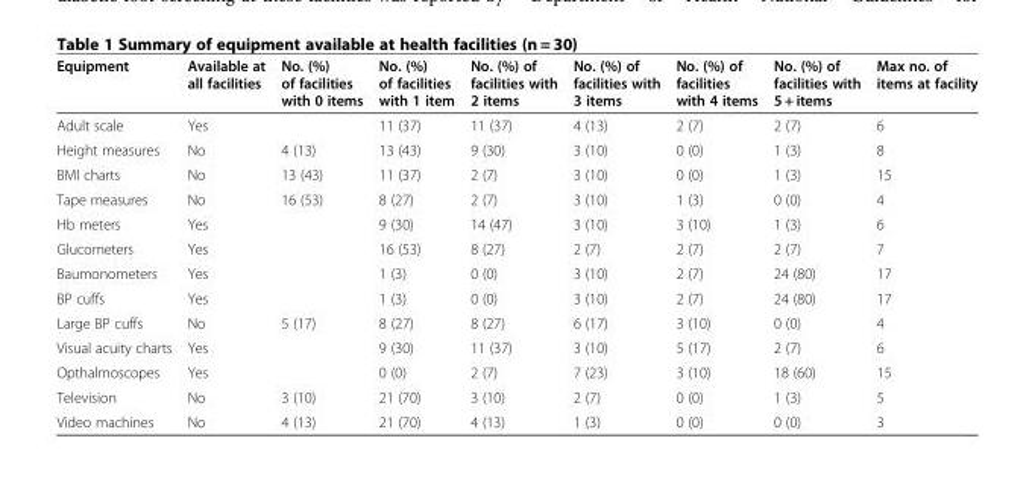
<table><thead><tr><td>Equipment</td><td>Available at all facilities</td><td>No. (%) of facilities with 0 items</td><td>No. (%) of facilities with 1 item</td><td>No. (%) of facilities with 2 items</td><td>No. (%) of facilities with 3 items</td><td>No. (%) of facilities with 4 items</td><td>No. (%) of facilities with 5 + items</td><td>Max no. of items at facility</td></tr></thead><tbody><tr><td>Adult scale</td><td>Yes</td><td></td><td>11 (37)</td><td>11 (37)</td><td>4 (13)</td><td>2 (7)</td><td>2 (7)</td><td>6</td></tr><tr><td>Height measures</td><td>No</td><td>4 (13)</td><td>13 (43)</td><td>9 (30)</td><td>3 (10)</td><td>0 (0)</td><td>1 (3)</td><td>8</td></tr><tr><td>BMI charts</td><td>No</td><td>13 (43)</td><td>11 (37)</td><td>2 (7)</td><td>3 (10)</td><td>0 (0)</td><td>1 (3)</td><td>15</td></tr><tr><td>Tape measures</td><td>No</td><td>16 (53)</td><td>8 (27)</td><td>2 (7)</td><td>3 (10)</td><td>1 (3)</td><td>0 (0)</td><td>4</td></tr><tr><td>Hb meters</td><td>Yes</td><td></td><td>9 (30)</td><td>14 (47)</td><td>3 (10)</td><td>3 (10)</td><td>1 (3)</td><td>6</td></tr><tr><td>Glucometers</td><td>Yes</td><td></td><td>16 (53)</td><td>8 (27)</td><td>2 (7)</td><td>2 (7)</td><td>2 (7)</td><td>7</td></tr><tr><td>Baumonometers</td><td>Yes</td><td></td><td>1 (3)</td><td>0 (0)</td><td>3 (10)</td><td>2 (7)</td><td>24 (80)</td><td>17</td></tr><tr><td>BP cuffs</td><td>Yes</td><td></td><td>1 (3)</td><td>0 (0)</td><td>3 (10)</td><td>2 (7)</td><td>24 (80)</td><td>17</td></tr><tr><td>Large BP cuffs</td><td>No</td><td>5 (17)</td><td>8 (27)</td><td>8 (27)</td><td>6 (17)</td><td>3 (10)</td><td>0 (0)</td><td>4</td></tr><tr><td>Visual acuity charts</td><td>Yes</td><td></td><td>9 (30)</td><td>11 (37)</td><td>3 (10)</td><td>5 (17)</td><td>2 (7)</td><td>6</td></tr><tr><td>Opthalmoscopes</td><td>Yes</td><td></td><td>0 (0)</td><td>2 (7)</td><td>7 (23)</td><td>3 (10)</td><td>18 (60)</td><td>15</td></tr><tr><td>Television</td><td>No</td><td>3 (10)</td><td>21 (70)</td><td>3 (10)</td><td>2 (7)</td><td>0 (0)</td><td>1 (3)</td><td>5</td></tr><tr><td>Video machines</td><td>No</td><td>4 (13)</td><td>21 (70)</td><td>4 (13)</td><td>1 (3)</td><td>0 (0)</td><td>0 (0)</td><td>3</td></tr></tbody></table>